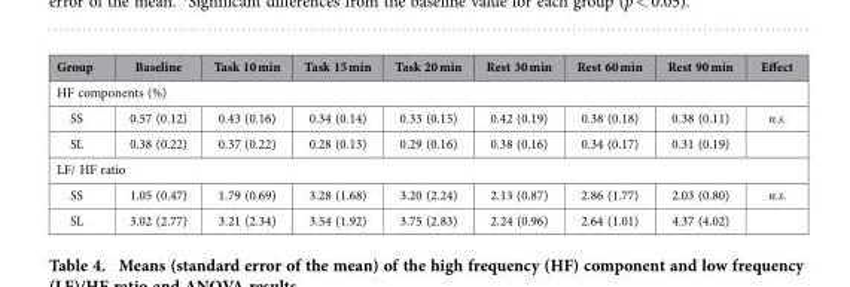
<table><thead><tr><td>Group</td><td>Baseline</td><td>Task 10 min</td><td>Task 15 min</td><td>Task 20 min</td><td>Rest 30 min</td><td>Rest 60 min</td><td>Rest 90 min</td><td>Effect</td></tr></thead><tbody><tr><td colspan="9">HF components (%)</td></tr><tr><td>SS</td><td>0.57 (0.12)</td><td>0.43 (0.16)</td><td>0.34 (0.14)</td><td>0.33 (0.15)</td><td>0.42 (0.19)</td><td>0.38 (0.18)</td><td>0.38 (0.11)</td><td>n.s.</td></tr><tr><td>SL</td><td>0.38 (0.22)</td><td>0.37 (0.22)</td><td>0.28 (0.13)</td><td>0.29 (0.16)</td><td>0.38 (0.16)</td><td>0.34 (0.17)</td><td>0.31 (0.19)</td><td></td></tr><tr><td colspan="9">LF/ HF ratio</td></tr><tr><td>SS</td><td>1.05 (0.47)</td><td>1.79 (0.69)</td><td>3.28 (1.68)</td><td>3.20 (2.24)</td><td>2.13 (0.87)</td><td>2.86 (1.77)</td><td>2.03 (0.80)</td><td>n.s.</td></tr><tr><td>SL</td><td>3.02 (2.77)</td><td>3.21 (2.34)</td><td>3.54 (1.92)</td><td>3.75 (2.83)</td><td>2.24 (0.96)</td><td>2.64 (1.01)</td><td>4.37 (4.02)</td><td></td></tr></tbody></table>